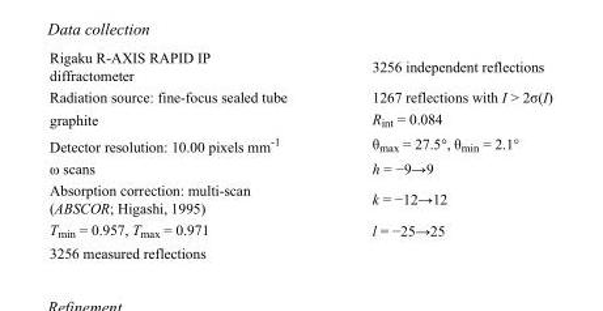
<table><tbody><tr><td>Rigaku R-AXIS RAPID IP diffractometer</td><td>3256 independent reflections</td></tr><tr><td>Radiation source: fine-focus sealed tube</td><td>1267 reflections with I &gt; 2σ(I)</td></tr><tr><td>graphite</td><td>R<sub>int</sub> = 0.084</td></tr><tr><td>Detector resolution: 10.00 pixels mm<sup>-1</sup></td><td>θ<sub>max</sub> = 27.5°, θ<sub>min</sub> = 2.1°</td></tr><tr><td>ω scans</td><td>h = −9→9</td></tr><tr><td>Absorption correction: multi-scan (ABSCOR; Higashi, 1995)</td><td>k = −12→12</td></tr><tr><td>T<sub>min</sub> = 0.957, T<sub>max</sub> = 0.971</td><td>l = −25→25</td></tr><tr><td>3256 measured reflections</td><td></td></tr></tbody></table>